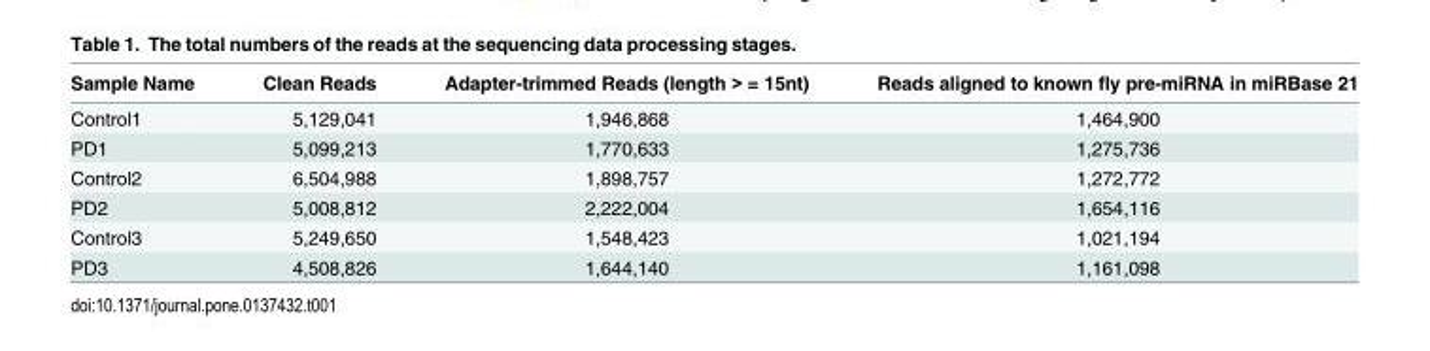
<table><thead><tr><td>Sample Name</td><td>Clean Reads</td><td>Adapter-trimmed Reads (length &gt; = 15nt)</td><td>Reads aligned to known fly pre-miRNA in miRBase 21</td></tr></thead><tbody><tr><td>Control1</td><td>5,129,041</td><td>1,946,868</td><td>1,464,900</td></tr><tr><td>PD1</td><td>5,099,213</td><td>1,770,633</td><td>1,275,736</td></tr><tr><td>Control2</td><td>6,504,988</td><td>1,898,757</td><td>1,272,772</td></tr><tr><td>PD2</td><td>5,008,812</td><td>2,222,004</td><td>1,654,116</td></tr><tr><td>Control3</td><td>5,249,650</td><td>1,548,423</td><td>1,021,194</td></tr><tr><td>PD3</td><td>4,508,826</td><td>1,644,140</td><td>1,161,098</td></tr></tbody></table>